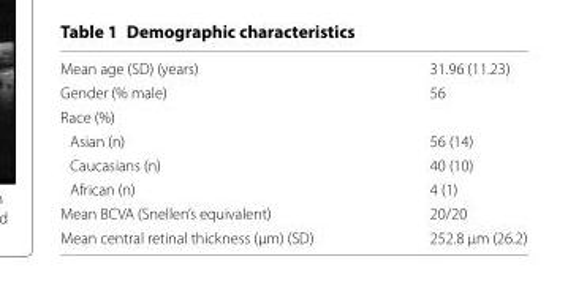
<table><tbody><tr><td>Mean age (SD) (years)</td><td>31.96 (11.23)</td></tr><tr><td>Gender (% male)</td><td>56</td></tr><tr><td colspan="2">Race (%)</td></tr><tr><td>Asian (n)</td><td>56 (14)</td></tr><tr><td>Caucasians (n)</td><td>40 (10)</td></tr><tr><td>African (n)</td><td>4 (1)</td></tr><tr><td>Mean BCVA (Snellen’s equivalent)</td><td>20/20</td></tr><tr><td>Mean central retinal thickness (µm) (SD)</td><td>252.8 µm (26.2)</td></tr></tbody></table>